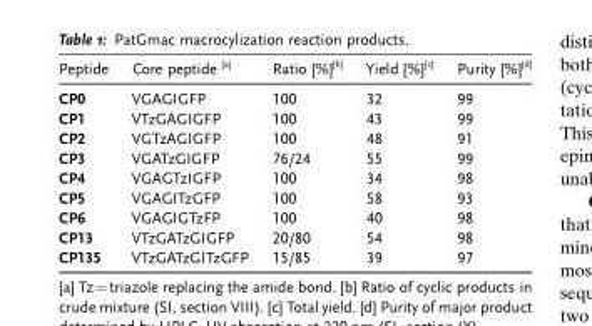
<table><thead><tr><td>Peptide</td><td>Core peptide <sup>[a]</sup></td><td>Ratio [%]<sup>[b]</sup></td><td>Yield [%]<sup>[c]</sup></td><td>Purity [%]<sup>[d]</sup></td></tr></thead><tbody><tr><td>CP0</td><td>VGAGIGFP</td><td>100</td><td>32</td><td>99</td></tr><tr><td>CP1</td><td>VTzGAGIGFP</td><td>100</td><td>43</td><td>99</td></tr><tr><td>CP2</td><td>VGTzAGIGFP</td><td>100</td><td>48</td><td>91</td></tr><tr><td>CP3</td><td>VGATzGIGFP</td><td>76/24</td><td>55</td><td>99</td></tr><tr><td>CP4</td><td>VGAGTzIGFP</td><td>100</td><td>34</td><td>98</td></tr><tr><td>CP5</td><td>VGAGITzGFP</td><td>100</td><td>58</td><td>93</td></tr><tr><td>CP6</td><td>VGAGIGTzFP</td><td>100</td><td>40</td><td>98</td></tr><tr><td>CP13</td><td>VTzGATzGIGFP</td><td>20/80</td><td>54</td><td>98</td></tr><tr><td>CP135</td><td>VTzGATzGITzGFP</td><td>15/85</td><td>39</td><td>97</td></tr></tbody></table>